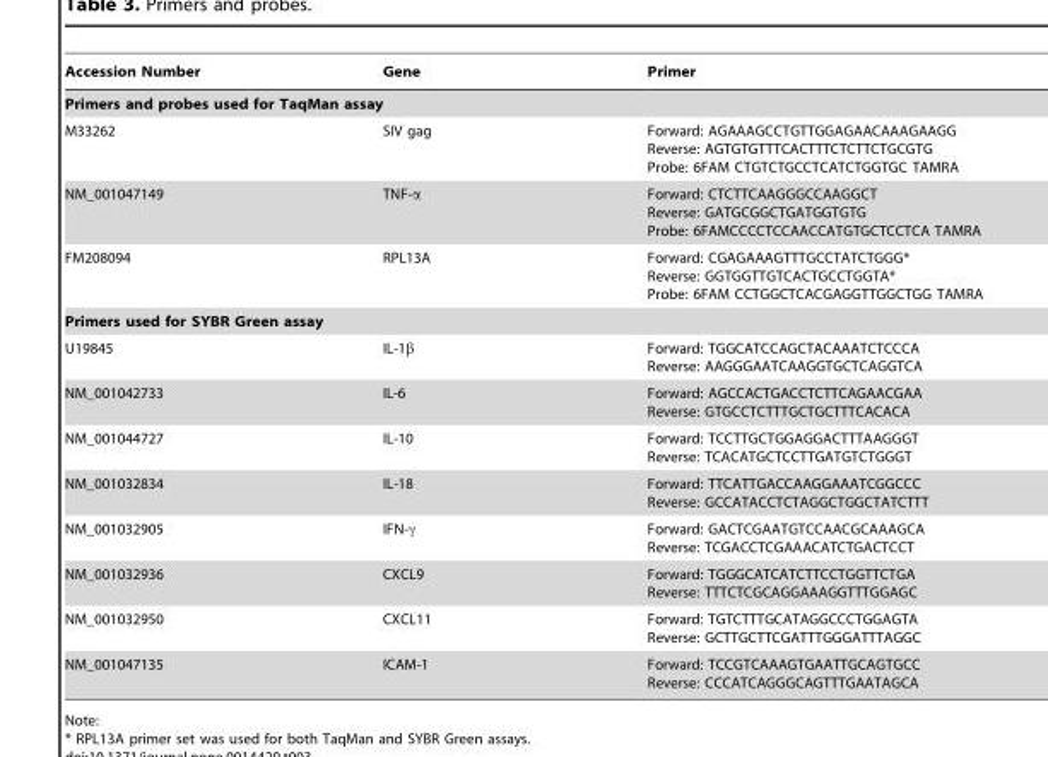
<table><thead><tr><td>Accession Number</td><td>Gene</td><td>Primer</td></tr></thead><tbody><tr><td colspan="3">Primers and probes used for TaqMan assay</td></tr><tr><td>M33262</td><td>SIV gag</td><td>Forward: AGAAAGCCTGTTGGAGAACAAAGAAGG Reverse: AGTGTGTTTCACTTTCTCTTCTGCGTG Probe: 6FAM CTGTCTGCCTCATCTGGTGC TAMRA</td></tr><tr><td>NM_001047149</td><td>TNF-α</td><td>Forward: CTCTTCAAGGGCCAAGGCT Reverse: GATGCGGCTGATGGTGTG Probe: 6FAMCCCCTCCAACCATGTGCTCCTCA TAMRA</td></tr><tr><td>FM208094</td><td>RPL13A</td><td>Forward: CGAGAAAGTTTGCCTATCTGGG* Reverse: GGTGGTTGTCACTGCCTGGTA* Probe: 6FAM CCTGGCTCACGAGGTTGGCTGG TAMRA</td></tr><tr><td colspan="3">Primers used for SYBR Green assay</td></tr><tr><td>U19845</td><td>IL-1β</td><td>Forward: TGGCATCCAGCTACAAATCTCCCA Reverse: AAGGGAATCAAGGTGCTCAGGTCA</td></tr><tr><td>NM_001042733</td><td>IL-6</td><td>Forward: AGCCACTGACCTCTTCAGAACGAA Reverse: GTGCCTCTTTGCTGCTTTCACACA</td></tr><tr><td>NM_001044727</td><td>IL-10</td><td>Forward: TCCTTGCTGGAGGACTTTAAGGGT Reverse: TCACATGCTCCTTGATGTCTGGGT</td></tr><tr><td>NM_001032834</td><td>IL-18</td><td>Forward: TTCATTGACCAAGGAAATCGGCCC Reverse: GCCATACCTCTAGGCTGGCTATCTTT</td></tr><tr><td>NM_001032905</td><td>IFN-γ</td><td>Forward: GACTCGAATGTCCAACGCAAAGCA Reverse: TCGACCTCGAAACATCTGACTCCT</td></tr><tr><td>NM_001032936</td><td>CXCL9</td><td>Forward: TGGGCATCATCTTCCTGGTTCTGA Reverse: TTTCTCGCAGGAAAGGTTTGGAGC</td></tr><tr><td>NM_001032950</td><td>CXCL11</td><td>Forward: TGTCTTTGCATAGGCCCTGGAGTA Reverse: GCTTGCTTCGATTTGGGATTTAGGC</td></tr><tr><td>NM_001047135</td><td>ICAM-1</td><td>Forward: TCCGTCAAAGTGAATTGCAGTGCC Reverse: CCCATCAGGGCAGTTTGAATAGCA</td></tr></tbody></table>